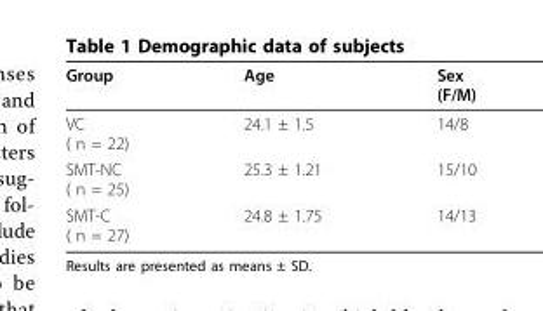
<table><thead><tr><td>Group</td><td>Age</td><td>Sex (F/M)</td></tr></thead><tbody><tr><td>VC ( n = 22)</td><td>24.1 ± 1.5</td><td>14/8</td></tr><tr><td>SMT-NC ( n = 25)</td><td>25.3 ± 1.21</td><td>15/10</td></tr><tr><td>SMT-C ( n = 27)</td><td>24.8 ± 1.75</td><td>14/13</td></tr></tbody></table>